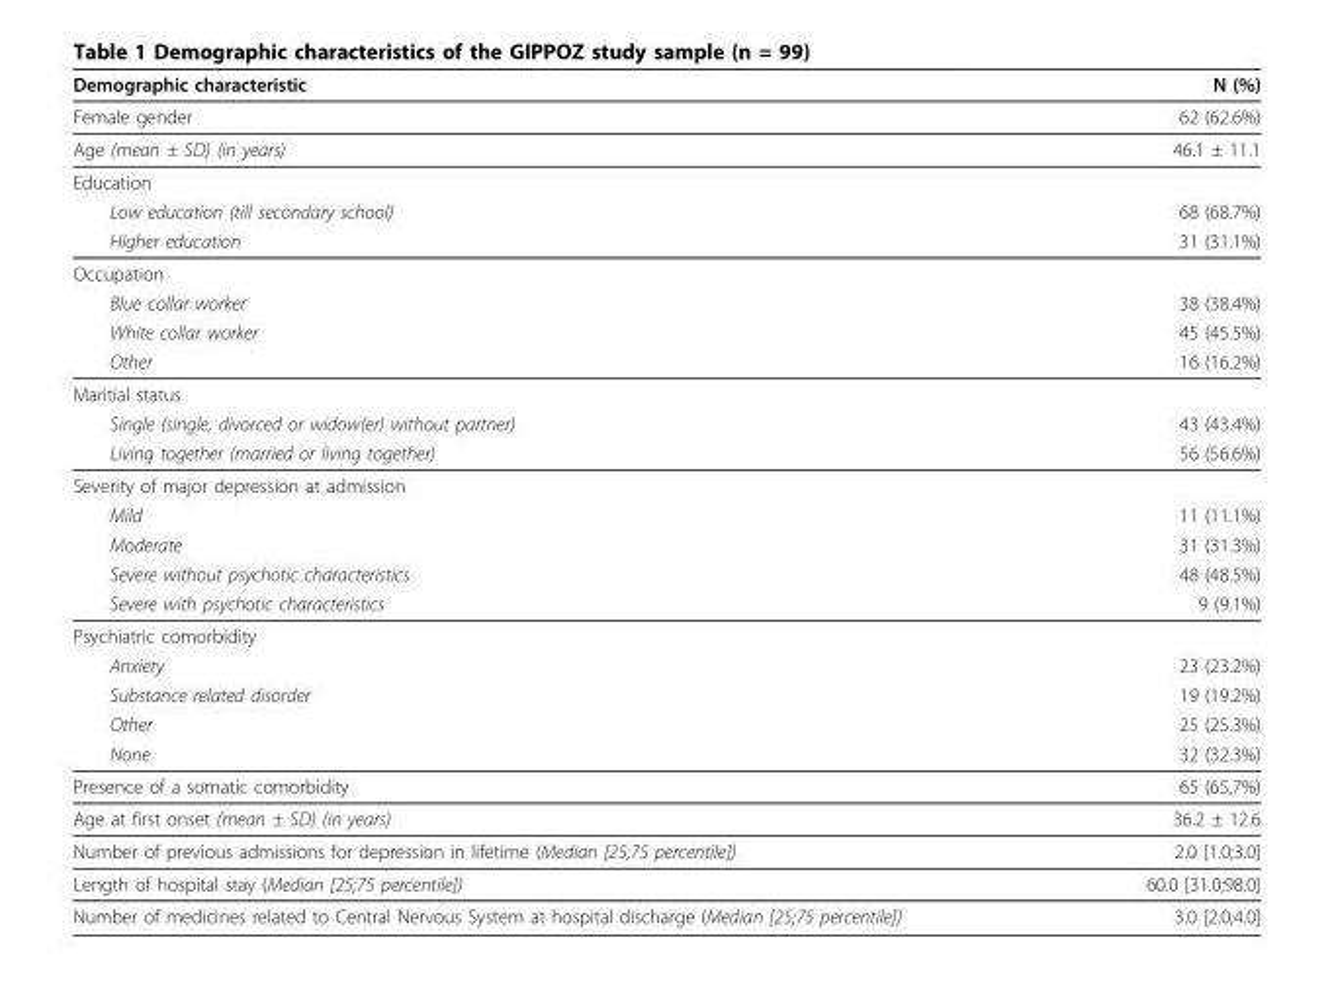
<table><thead><tr><td>Demographic characteristic</td><td>N (%)</td></tr></thead><tbody><tr><td>Female gender</td><td>62 (62.6%)</td></tr><tr><td>Age (mean ± SD) (in years)</td><td>46.1 ± 11.1</td></tr><tr><td colspan="2">Education</td></tr><tr><td>Low education (till secondary school)</td><td>68 (68.7%)</td></tr><tr><td>Higher education</td><td>31 (31.1%)</td></tr><tr><td colspan="2">Occupation</td></tr><tr><td>Blue collar worker</td><td>38 (38.4%)</td></tr><tr><td>White collar worker</td><td>45 (45.5%)</td></tr><tr><td>Other</td><td>16 (16.2%)</td></tr><tr><td colspan="2">Maritial status</td></tr><tr><td>Single (single, divorced or widow(er) without partner)</td><td>43 (43.4%)</td></tr><tr><td>Living together (married or living together)</td><td>56 (56.6%)</td></tr><tr><td colspan="2">Severity of major depression at admission</td></tr><tr><td>Mild</td><td>11 (11.1%)</td></tr><tr><td>Moderate</td><td>31 (31.3%)</td></tr><tr><td>Severe without psychotic characteristics</td><td>48 (48.5%)</td></tr><tr><td>Severe with psychotic characteristics</td><td>9 (9.1%)</td></tr><tr><td colspan="2">Psychiatric comorbidity</td></tr><tr><td>Anxiety</td><td>23 (23.2%)</td></tr><tr><td>Substance related disorder</td><td>19 (19.2%)</td></tr><tr><td>Other</td><td>25 (25.3%)</td></tr><tr><td>None</td><td>32 (32.3%)</td></tr><tr><td>Presence of a somatic comorbidity</td><td>65 (65,7%)</td></tr><tr><td>Age at first onset (mean ± SD) (in years)</td><td>36.2 ± 12.6</td></tr><tr><td>Number of previous admissions for depression in lifetime (Median [25;75 percentile])</td><td>2.0 [1.0;3.0]</td></tr><tr><td>Length of hospital stay (Median [25;75 percentile])</td><td>60.0 [31.0;98.0]</td></tr><tr><td>Number of medicines related to Central Nervous System at hospital discharge (Median [25;75 percentile])</td><td>3.0 [2.0;4.0]</td></tr></tbody></table>